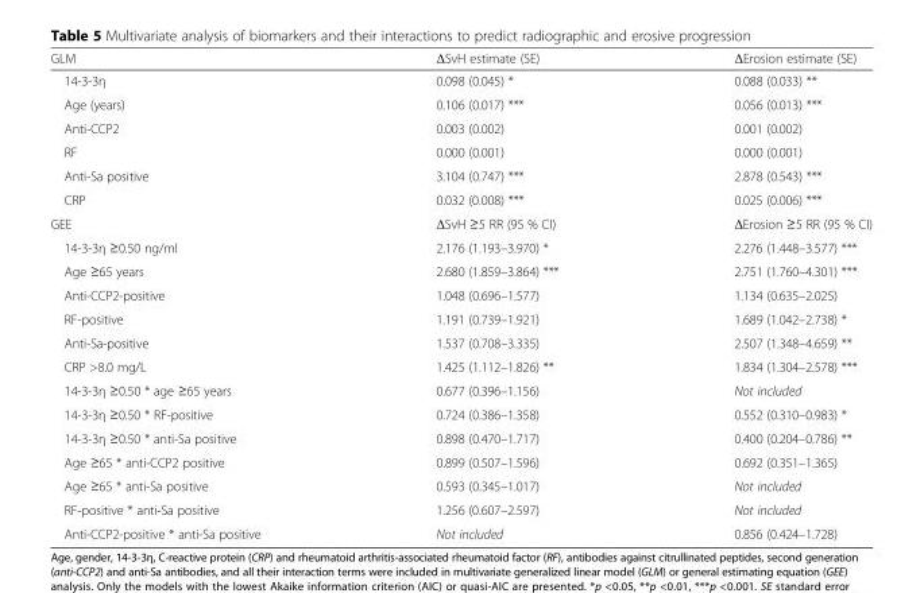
<table><thead><tr><td>GLM</td><td>ΔSvH estimate (SE)</td><td>ΔErosion estimate (SE)</td></tr></thead><tbody><tr><td>14-3-3η</td><td>0.098 (0.045) *</td><td>0.088 (0.033) **</td></tr><tr><td>Age (years)</td><td>0.106 (0.017) ***</td><td>0.056 (0.013) ***</td></tr><tr><td>Anti-CCP2</td><td>0.003 (0.002)</td><td>0.001 (0.002)</td></tr><tr><td>RF</td><td>0.000 (0.001)</td><td>0.000 (0.001)</td></tr><tr><td>Anti-Sa positive</td><td>3.104 (0.747) ***</td><td>2.878 (0.543) ***</td></tr><tr><td>CRP</td><td>0.032 (0.008) ***</td><td>0.025 (0.006) ***</td></tr><tr><td>GEE</td><td>ΔSvH ≥5 RR (95 % CI)</td><td>ΔErosion ≥5 RR (95 % CI)</td></tr><tr><td>14-3-3η ≥0.50 ng/ml</td><td>2.176 (1.193–3.970) *</td><td>2.276 (1.448–3.577) ***</td></tr><tr><td>Age ≥65 years</td><td>2.680 (1.859–3.864) ***</td><td>2.751 (1.760–4.301) ***</td></tr><tr><td>Anti-CCP2-positive</td><td>1.048 (0.696–1.577)</td><td>1.134 (0.635–2.025)</td></tr><tr><td>RF-positive</td><td>1.191 (0.739–1.921)</td><td>1.689 (1.042–2.738) *</td></tr><tr><td>Anti-Sa-positive</td><td>1.537 (0.708–3.335)</td><td>2.507 (1.348–4.659) **</td></tr><tr><td>CRP &gt;8.0 mg/L</td><td>1.425 (1.112–1.826) **</td><td>1.834 (1.304–2.578) ***</td></tr><tr><td>14-3-3η ≥0.50 * age ≥65 years</td><td>0.677 (0.396–1.156)</td><td>Not included</td></tr><tr><td>14-3-3η ≥0.50 * RF-positive</td><td>0.724 (0.386–1.358)</td><td>0.552 (0.310–0.983) *</td></tr><tr><td>14-3-3η ≥0.50 * anti-Sa positive</td><td>0.898 (0.470–1.717)</td><td>0.400 (0.204–0.786) **</td></tr><tr><td>Age ≥65 * anti-CCP2 positive</td><td>0.899 (0.507–1.596)</td><td>0.692 (0.351–1.365)</td></tr><tr><td>Age ≥65 * anti-Sa positive</td><td>0.593 (0.345–1.017)</td><td>Not included</td></tr><tr><td>RF-positive * anti-Sa positive</td><td>1.256 (0.607–2.597)</td><td>Not included</td></tr><tr><td>Anti-CCP2-positive * anti-Sa positive</td><td>Not included</td><td>0.856 (0.424–1.728)</td></tr></tbody></table>